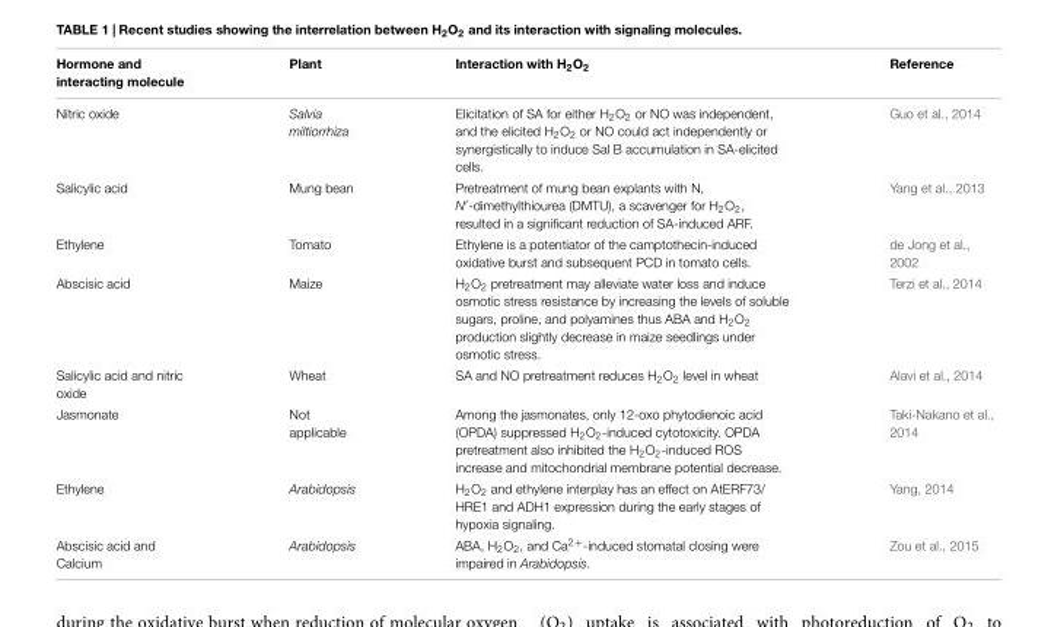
<table><thead><tr><td>Hormone and interacting molecule</td><td>Plant</td><td>Interaction with H<sub>2</sub>O<sub>2</sub></td><td>Reference</td></tr></thead><tbody><tr><td>Nitric oxide</td><td>Salvia miltiorrhiza</td><td>Elicitation of SA for either H<sub>2</sub>O<sub>2</sub> or NO was independent, and the elicited H<sub>2</sub>O<sub>2</sub> or NO could act independently or synergistically to induce Sal B accumulation in SA-elicited cells.</td><td>Guo et al., 2014</td></tr><tr><td>Salicylic acid</td><td>Mung bean</td><td>Pretreatment of mung bean explants with N, N′-dimethylthiourea (DMTU), a scavenger for H<sub>2</sub>O<sub>2</sub>, resulted in a significant reduction of SA-induced ARF.</td><td>Yang et al., 2013</td></tr><tr><td>Ethylene</td><td>Tomato</td><td>Ethylene is a potentiator of the camptothecin-induced oxidative burst and subsequent PCD in tomato cells.</td><td>de Jong et al., 2002</td></tr><tr><td>Abscisic acid</td><td>Maize</td><td>H<sub>2</sub>O<sub>2</sub> pretreatment may alleviate water loss and induce osmotic stress resistance by increasing the levels of soluble sugars, proline, and polyamines thus ABA and H<sub>2</sub>O<sub>2</sub> production slightly decrease in maize seedlings under osmotic stress.</td><td>Terzi et al., 2014</td></tr><tr><td>Salicylic acid and nitric oxide</td><td>Wheat</td><td>SA and NO pretreatment reduces H<sub>2</sub>O<sub>2</sub> level in wheat</td><td>Alavi et al., 2014</td></tr><tr><td>Jasmonate</td><td>Not applicable</td><td>Among the jasmonates, only 12-oxo phytodienoic acid (OPDA) suppressed H<sub>2</sub>O<sub>2</sub>-induced cytotoxicity. OPDA pretreatment also inhibited the H<sub>2</sub>O<sub>2</sub>-induced ROS increase and mitochondrial membrane potential decrease.</td><td>Taki-Nakano et al., 2014</td></tr><tr><td>Ethylene</td><td>Arabidopsis</td><td>H<sub>2</sub>O<sub>2</sub> and ethylene interplay has an effect on AtERF73/ HRE1 and ADH1 expression during the early stages of hypoxia signaling.</td><td>Yang, 2014</td></tr><tr><td>Abscisic acid and Calcium</td><td>Arabidopsis</td><td>ABA, H<sub>2</sub>O<sub>2</sub>, and Ca<sup>2+</sup>-induced stomatal closing were impaired in Arabidopsis.</td><td>Zou et al., 2015</td></tr></tbody></table>